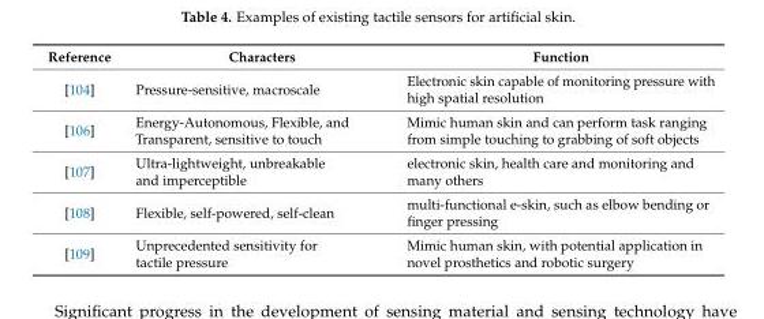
<table><thead><tr><td>Reference</td><td>Characters</td><td>Function</td></tr></thead><tbody><tr><td>[104]</td><td>Pressure-sensitive, macroscale</td><td>Electronic skin capable of monitoring pressure with high spatial resolution</td></tr><tr><td>[106]</td><td>Energy-Autonomous, Flexible, and Transparent, sensitive to touch</td><td>Mimic human skin and can perform task ranging from simple touching to grabbing of soft objects</td></tr><tr><td>[107]</td><td>Ultra-lightweight, unbreakable and imperceptible</td><td>electronic skin, health care and monitoring and many others</td></tr><tr><td>[108]</td><td>Flexible, self-powered, self-clean</td><td>multi-functional e-skin, such as elbow bending or finger pressing</td></tr><tr><td>[109]</td><td>Unprecedented sensitivity for tactile pressure</td><td>Mimic human skin, with potential application in novel prosthetics and robotic surgery</td></tr></tbody></table>